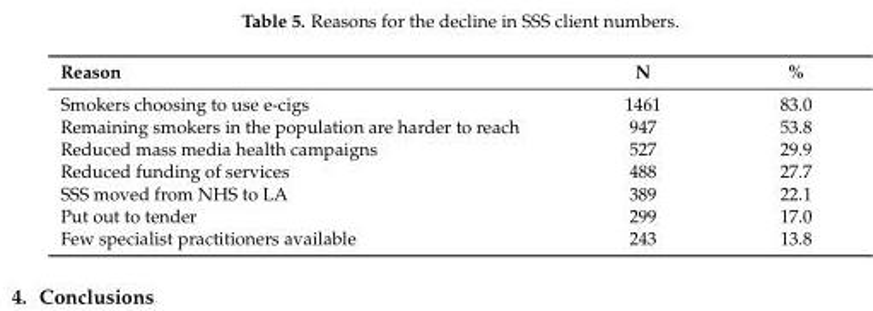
<table><thead><tr><td>Reason</td><td>N</td><td>%</td></tr></thead><tbody><tr><td>Smokers choosing to use e-cigs</td><td>1461</td><td>83.0</td></tr><tr><td>Remaining smokers in the population are harder to reach</td><td>947</td><td>53.8</td></tr><tr><td>Reduced mass media health campaigns</td><td>527</td><td>29.9</td></tr><tr><td>Reduced funding of services</td><td>488</td><td>27.7</td></tr><tr><td>SSS moved from NHS to LA</td><td>389</td><td>22.1</td></tr><tr><td>Put out to tender</td><td>299</td><td>17.0</td></tr><tr><td>Few specialist practitioners available</td><td>243</td><td>13.8</td></tr></tbody></table>